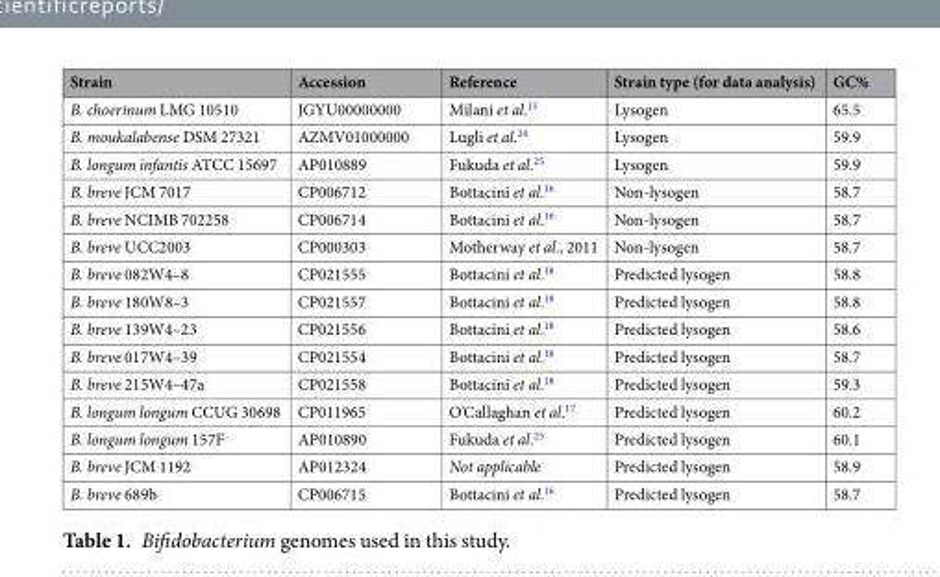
<table><thead><tr><td>Strain</td><td>Accession</td><td>Reference</td><td>Strain type (for data analysis)</td><td>GC%</td></tr></thead><tbody><tr><td>B. choerinum LMG 10510</td><td>JGYU00000000</td><td>Milani et al.<sup>15</sup></td><td>Lysogen</td><td>65.5</td></tr><tr><td>B. moukalabense DSM 27321</td><td>AZMV01000000</td><td>Lugli et al.<sup>24</sup></td><td>Lysogen</td><td>59.9</td></tr><tr><td>B. longum infantis ATCC 15697</td><td>AP010889</td><td>Fukuda et al.<sup>25</sup></td><td>Lysogen</td><td>59.9</td></tr><tr><td>B. breve JCM 7017</td><td>CP006712</td><td>Bottacini et al.<sup>16</sup></td><td>Non-lysogen</td><td>58.7</td></tr><tr><td>B. breve NCIMB 702258</td><td>CP006714</td><td>Bottacini et al.<sup>16</sup></td><td>Non-lysogen</td><td>58.7</td></tr><tr><td>B. breve UCC2003</td><td>CP000303</td><td>Motherway et al., 2011</td><td>Non-lysogen</td><td>58.7</td></tr><tr><td>B. breve 082W4–8</td><td>CP021555</td><td>Bottacini et al.<sup>18</sup></td><td>Predicted lysogen</td><td>58.8</td></tr><tr><td>B. breve 180W8–3</td><td>CP021557</td><td>Bottacini et al.<sup>18</sup></td><td>Predicted lysogen</td><td>58.8</td></tr><tr><td>B. breve 139W4–23</td><td>CP021556</td><td>Bottacini et al.<sup>18</sup></td><td>Predicted lysogen</td><td>58.6</td></tr><tr><td>B. breve 017W4–39</td><td>CP021554</td><td>Bottacini et al.<sup>18</sup></td><td>Predicted lysogen</td><td>58.7</td></tr><tr><td>B. breve 215W4–47a</td><td>CP021558</td><td>Bottacini et al.<sup>18</sup></td><td>Predicted lysogen</td><td>59.3</td></tr><tr><td>B. longum longum CCUG 30698</td><td>CP011965</td><td>O’Callaghan et al.<sup>17</sup></td><td>Predicted lysogen</td><td>60.2</td></tr><tr><td>B. longum longum 157F</td><td>AP010890</td><td>Fukuda et al.<sup>25</sup></td><td>Predicted lysogen</td><td>60.1</td></tr><tr><td>B. breve JCM 1192</td><td>AP012324</td><td>Not applicable</td><td>Predicted lysogen</td><td>58.9</td></tr><tr><td>B. breve 689b</td><td>CP006715</td><td>Bottacini et al.<sup>16</sup></td><td>Predicted lysogen</td><td>58.7</td></tr></tbody></table>